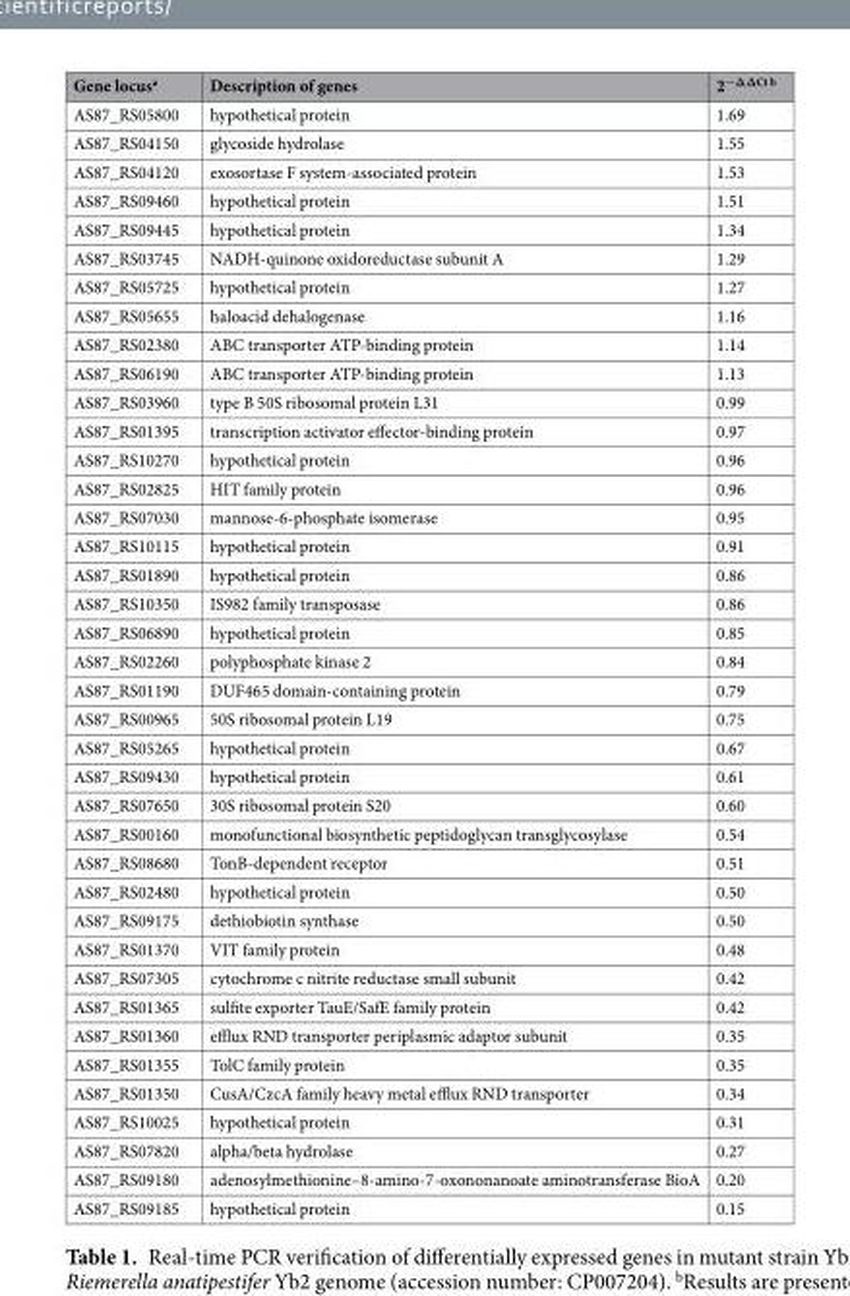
<table><thead><tr><td>Gene locus<sup>a</sup></td><td>Description of genes</td><td>2<sup>−ΔΔCt b</sup></td></tr></thead><tbody><tr><td>AS87_RS05800</td><td>hypothetical protein</td><td>1.69</td></tr><tr><td>AS87_RS04150</td><td>glycoside hydrolase</td><td>1.55</td></tr><tr><td>AS87_RS04120</td><td>exosortase F system-associated protein</td><td>1.53</td></tr><tr><td>AS87_RS09460</td><td>hypothetical protein</td><td>1.51</td></tr><tr><td>AS87_RS09445</td><td>hypothetical protein</td><td>1.34</td></tr><tr><td>AS87_RS03745</td><td>NADH-quinone oxidoreductase subunit A</td><td>1.29</td></tr><tr><td>AS87_RS05725</td><td>hypothetical protein</td><td>1.27</td></tr><tr><td>AS87_RS05655</td><td>haloacid dehalogenase</td><td>1.16</td></tr><tr><td>AS87_RS02380</td><td>ABC transporter ATP-binding protein</td><td>1.14</td></tr><tr><td>AS87_RS06190</td><td>ABC transporter ATP-binding protein</td><td>1.13</td></tr><tr><td>AS87_RS03960</td><td>type B 50S ribosomal protein L31</td><td>0.99</td></tr><tr><td>AS87_RS01395</td><td>transcription activator effector-binding protein</td><td>0.97</td></tr><tr><td>AS87_RS10270</td><td>hypothetical protein</td><td>0.96</td></tr><tr><td>AS87_RS02825</td><td>HIT family protein</td><td>0.96</td></tr><tr><td>AS87_RS07030</td><td>mannose-6-phosphate isomerase</td><td>0.95</td></tr><tr><td>AS87_RS10115</td><td>hypothetical protein</td><td>0.91</td></tr><tr><td>AS87_RS01890</td><td>hypothetical protein</td><td>0.86</td></tr><tr><td>AS87_RS10350</td><td>IS982 family transposase</td><td>0.86</td></tr><tr><td>AS87_RS06890</td><td>hypothetical protein</td><td>0.85</td></tr><tr><td>AS87_RS02260</td><td>polyphosphate kinase 2</td><td>0.84</td></tr><tr><td>AS87_RS01190</td><td>DUF465 domain-containing protein</td><td>0.79</td></tr><tr><td>AS87_RS00965</td><td>50S ribosomal protein L19</td><td>0.75</td></tr><tr><td>AS87_RS05265</td><td>hypothetical protein</td><td>0.67</td></tr><tr><td>AS87_RS09430</td><td>hypothetical protein</td><td>0.61</td></tr><tr><td>AS87_RS07650</td><td>30S ribosomal protein S20</td><td>0.60</td></tr><tr><td>AS87_RS00160</td><td>monofunctional biosynthetic peptidoglycan transglycosylase</td><td>0.54</td></tr><tr><td>AS87_RS08680</td><td>TonB-dependent receptor</td><td>0.51</td></tr><tr><td>AS87_RS02480</td><td>hypothetical protein</td><td>0.50</td></tr><tr><td>AS87_RS09175</td><td>dethiobiotin synthase</td><td>0.50</td></tr><tr><td>AS87_RS01370</td><td>VIT family protein</td><td>0.48</td></tr><tr><td>AS87_RS07305</td><td>cytochrome c nitrite reductase small subunit</td><td>0.42</td></tr><tr><td>AS87_RS01365</td><td>sulfite exporter TauE/SafE family protein</td><td>0.42</td></tr><tr><td>AS87_RS01360</td><td>efflux RND transporter periplasmic adaptor subunit</td><td>0.35</td></tr><tr><td>AS87_RS01355</td><td>TolC family protein</td><td>0.35</td></tr><tr><td>AS87_RS01350</td><td>CusA/CzcA family heavy metal efflux RND transporter</td><td>0.34</td></tr><tr><td>AS87_RS10025</td><td>hypothetical protein</td><td>0.31</td></tr><tr><td>AS87_RS07820</td><td>alpha/beta hydrolase</td><td>0.27</td></tr><tr><td>AS87_RS09180</td><td>adenosylmethionine–8-amino-7-oxononanoate aminotransferase BioA</td><td>0.20</td></tr><tr><td>AS87_RS09185</td><td>hypothetical protein</td><td>0.15</td></tr></tbody></table>